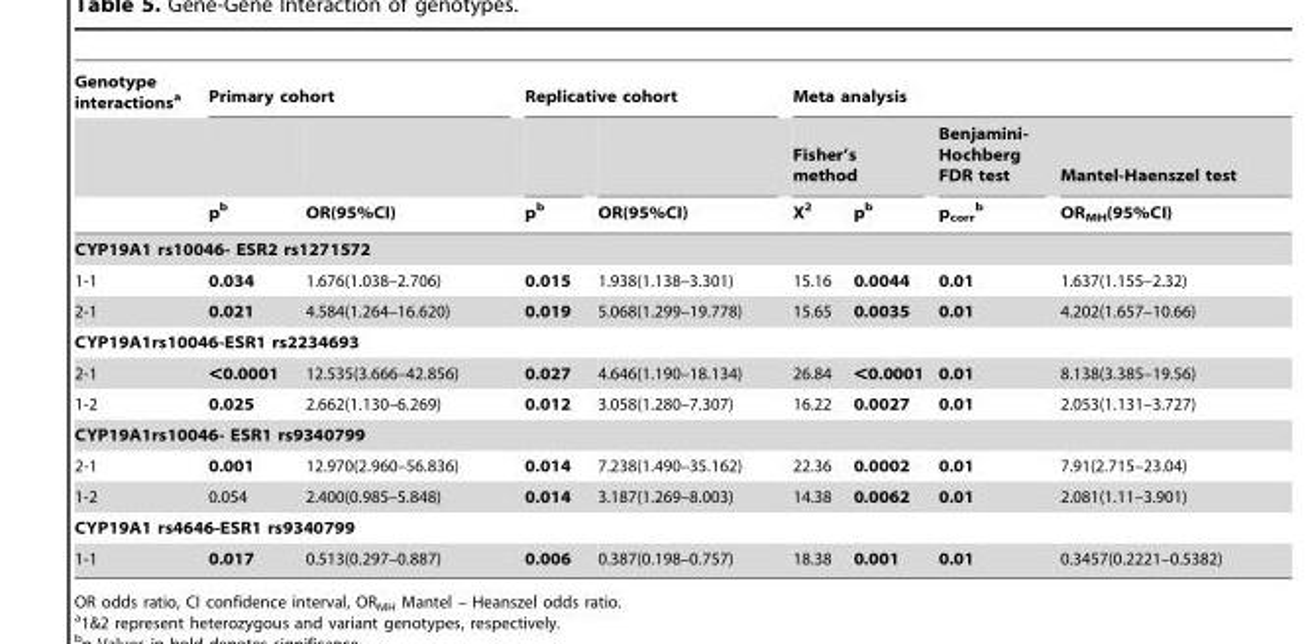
<table><thead><tr><td rowspan="3">Genotype interactions<sup>a</sup></td><td colspan="2">Primary cohort</td><td colspan="2">Replicative cohort</td><td colspan="4">Meta analysis</td></tr><tr><td rowspan="2">p<sup>b</sup></td><td rowspan="2">OR(95%CI)</td><td rowspan="2">p<sup>b</sup></td><td rowspan="2">OR(95%CI)</td><td colspan="2">Fisher’s method</td><td rowspan="2">Benjamini- Hochberg FDR test p<sub>corr</sub> b</td><td rowspan="2">Mantel-Haenszel test OR<sub>MH</sub>(95%CI)</td></tr><tr><td>X<sup>2</sup></td><td>p<sup>b</sup></td></tr></thead><tbody><tr><td colspan="9">CYP19A1 rs10046- ESR2 rs1271572</td></tr><tr><td>1-1</td><td>0.034</td><td>1.676(1.038–2.706)</td><td>0.015</td><td>1.938(1.138–3.301)</td><td>15.16</td><td>0.0044</td><td>0.01</td><td>1.637(1.155–2.32)</td></tr><tr><td>2-1</td><td>0.021</td><td>4.584(1.264–16.620)</td><td>0.019</td><td>5.068(1.299–19.778)</td><td>15.65</td><td>0.0035</td><td>0.01</td><td>4.202(1.657–10.66)</td></tr><tr><td colspan="9">CYP19A1rs10046-ESR1 rs2234693</td></tr><tr><td>2-1</td><td>&lt;0.0001</td><td>12.535(3.666–42.856)</td><td>0.027</td><td>4.646(1.190–18.134)</td><td>26.84</td><td>&lt;0.0001</td><td>0.01</td><td>8.138(3.385–19.56)</td></tr><tr><td>1-2</td><td>0.025</td><td>2.662(1.130–6.269)</td><td>0.012</td><td>3.058(1.280–7.307)</td><td>16.22</td><td>0.0027</td><td>0.01</td><td>2.053(1.131–3.727)</td></tr><tr><td colspan="9">CYP19A1rs10046- ESR1 rs9340799</td></tr><tr><td>2-1</td><td>0.001</td><td>12.970(2.960–56.836)</td><td>0.014</td><td>7.238(1.490–35.162)</td><td>22.36</td><td>0.0002</td><td>0.01</td><td>7.91(2.715–23.04)</td></tr><tr><td>1-2</td><td>0.054</td><td>2.400(0.985–5.848)</td><td>0.014</td><td>3.187(1.269–8.003)</td><td>14.38</td><td>0.0062</td><td>0.01</td><td>2.081(1.11–3.901)</td></tr><tr><td colspan="9">CYP19A1 rs4646-ESR1 rs9340799</td></tr><tr><td>1-1</td><td>0.017</td><td>0.513(0.297–0.887)</td><td>0.006</td><td>0.387(0.198–0.757)</td><td>18.38</td><td>0.001</td><td>0.01</td><td>0.3457(0.2221–0.5382)</td></tr></tbody></table>